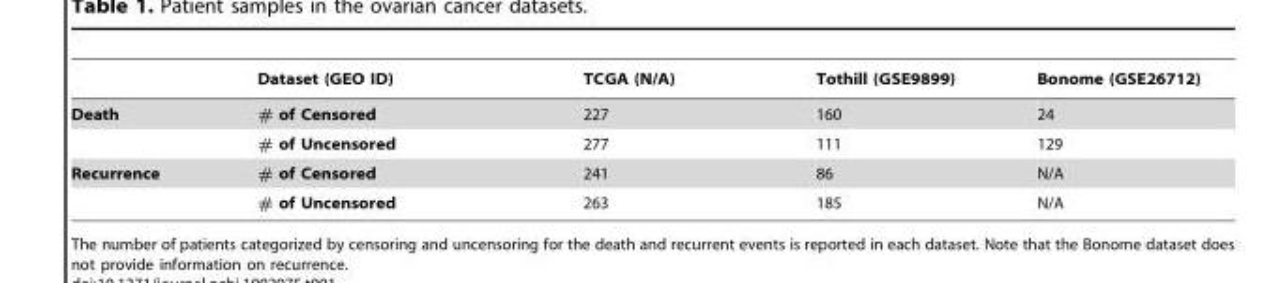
<table><thead><tr><td></td><td>Dataset (GEO ID)</td><td>TCGA (N/A)</td><td>Tothill (GSE9899)</td><td>Bonome (GSE26712)</td></tr></thead><tbody><tr><td rowspan="2">Death</td><td># of Censored</td><td>227</td><td>160</td><td>24</td></tr><tr><td># of Uncensored</td><td>277</td><td>111</td><td>129</td></tr><tr><td rowspan="2">Recurrence</td><td># of Censored</td><td>241</td><td>86</td><td>N/A</td></tr><tr><td># of Uncensored</td><td>263</td><td>185</td><td>N/A</td></tr></tbody></table>